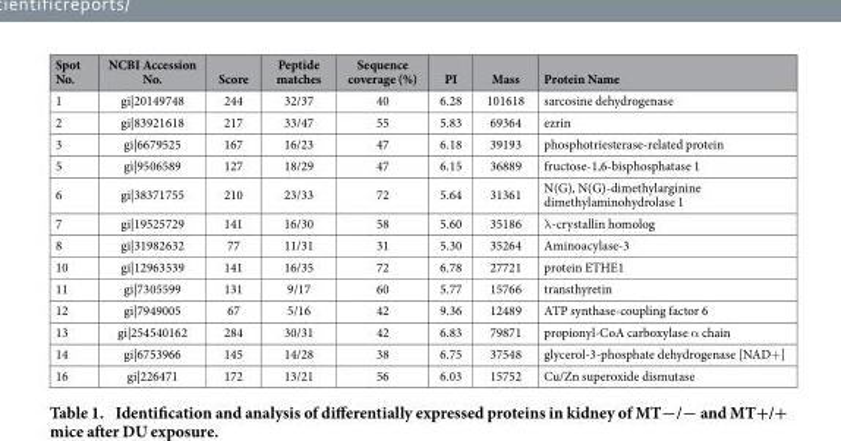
<table><thead><tr><td>Spot No.</td><td>NCBI Accession No.</td><td>Score</td><td>Peptide matches</td><td>Sequence coverage (%)</td><td>PI</td><td>Mass</td><td>Protein Name</td></tr></thead><tbody><tr><td>1</td><td>gi|20149748</td><td>244</td><td>32/37</td><td>40</td><td>6.28</td><td>101618</td><td>sarcosine dehydrogenase</td></tr><tr><td>2</td><td>gi|83921618</td><td>217</td><td>33/47</td><td>55</td><td>5.83</td><td>69364</td><td>ezrin</td></tr><tr><td>3</td><td>gi|6679525</td><td>167</td><td>16/23</td><td>47</td><td>6.18</td><td>39193</td><td>phosphotriesterase-related protein</td></tr><tr><td>5</td><td>gi|9506589</td><td>127</td><td>18/29</td><td>47</td><td>6.15</td><td>36889</td><td>fructose-1,6-bisphosphatase 1</td></tr><tr><td>6</td><td>gi|38371755</td><td>210</td><td>23/33</td><td>72</td><td>5.64</td><td>31361</td><td>N(G), N(G)-dimethylarginine dimethylaminohydrolase 1</td></tr><tr><td>7</td><td>gi|19525729</td><td>141</td><td>16/30</td><td>58</td><td>5.60</td><td>35186</td><td>λ -crystallin homolog</td></tr><tr><td>8</td><td>gi|31982632</td><td>77</td><td>11/31</td><td>31</td><td>5.30</td><td>35264</td><td>Aminoacylase-3</td></tr><tr><td>10</td><td>gi|12963539</td><td>141</td><td>16/35</td><td>72</td><td>6.78</td><td>27721</td><td>protein ETHE1</td></tr><tr><td>11</td><td>gi|7305599</td><td>131</td><td>9/17</td><td>60</td><td>5.77</td><td>15766</td><td>transthyretin</td></tr><tr><td>12</td><td>gi|7949005</td><td>67</td><td>5/16</td><td>42</td><td>9.36</td><td>12489</td><td>ATP synthase-coupling factor 6</td></tr><tr><td>13</td><td>gi|254540162</td><td>284</td><td>30/31</td><td>42</td><td>6.83</td><td>79871</td><td>propionyl-CoA carboxylase α chain</td></tr><tr><td>14</td><td>gi|6753966</td><td>145</td><td>14/28</td><td>38</td><td>6.75</td><td>37548</td><td>glycerol-3-phosphate dehydrogenase [NAD+ ]</td></tr><tr><td>16</td><td>gi|226471</td><td>172</td><td>13/21</td><td>56</td><td>6.03</td><td>15752</td><td>Cu/Zn superoxide dismutase</td></tr></tbody></table>